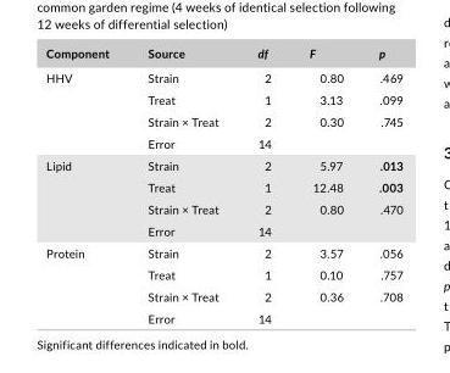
<table><thead><tr><td>Component</td><td>Source</td><td>df</td><td>F</td><td>p</td></tr></thead><tbody><tr><td rowspan="4">HHV</td><td>Strain</td><td>2</td><td>0.80</td><td>.469</td></tr><tr><td>Treat</td><td>1</td><td>3.13</td><td>.099</td></tr><tr><td>Strain × Treat</td><td>2</td><td>0.30</td><td>.745</td></tr><tr><td>Error</td><td>14</td><td></td><td></td></tr><tr><td rowspan="4">Lipid</td><td>Strain</td><td>2</td><td>5.97</td><td>.013</td></tr><tr><td>Treat</td><td>1</td><td>12.48</td><td>.003</td></tr><tr><td>Strain × Treat</td><td>2</td><td>0.80</td><td>.470</td></tr><tr><td>Error</td><td>14</td><td></td><td></td></tr><tr><td rowspan="4">Protein</td><td>Strain</td><td>2</td><td>3.57</td><td>.056</td></tr><tr><td>Treat</td><td>1</td><td>0.10</td><td>.757</td></tr><tr><td>Strain × Treat</td><td>2</td><td>0.36</td><td>.708</td></tr><tr><td>Error</td><td>14</td><td></td><td></td></tr></tbody></table>